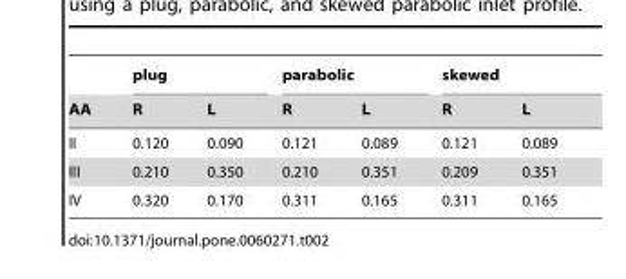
<table><thead><tr><td rowspan="2">AA</td><td colspan="2">plug</td><td colspan="2">parabolic</td><td colspan="2">skewed</td></tr><tr><td>R</td><td>L</td><td>R</td><td>L</td><td>R</td><td>L</td></tr></thead><tbody><tr><td>II</td><td>0.120</td><td>0.090</td><td>0.121</td><td>0.089</td><td>0.121</td><td>0.089</td></tr><tr><td>III</td><td>0.210</td><td>0.350</td><td>0.210</td><td>0.351</td><td>0.209</td><td>0.351</td></tr><tr><td>IV</td><td>0.320</td><td>0.170</td><td>0.311</td><td>0.165</td><td>0.311</td><td>0.165</td></tr></tbody></table>